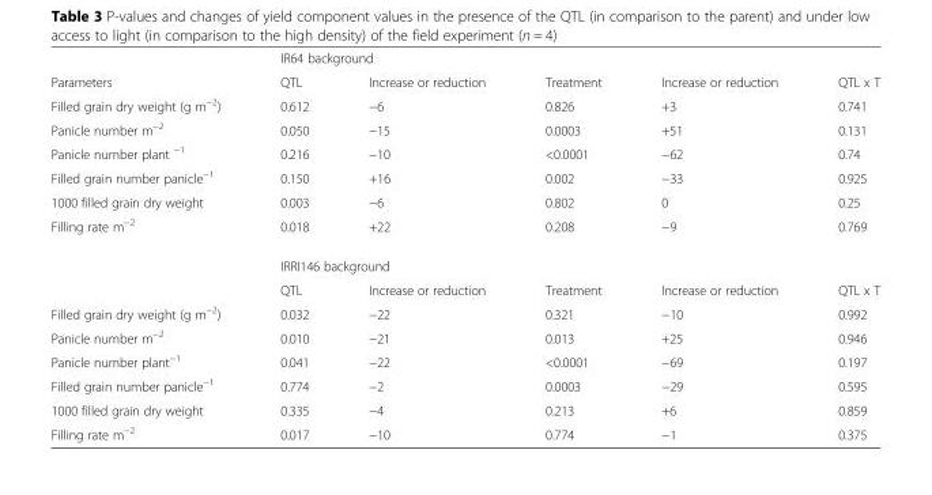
<table><thead><tr><td rowspan="2">Parameters</td><td colspan="5">IR64 background</td></tr><tr><td>QTL</td><td>Increase or reduction</td><td>Treatment</td><td>Increase or reduction</td><td>QTL x T</td></tr></thead><tbody><tr><td>Filled grain dry weight (g m<sup>−2</sup>)</td><td>0.612</td><td>−6</td><td>0.826</td><td>+3</td><td>0.741</td></tr><tr><td>Panicle number m<sup>−2</sup></td><td>0.050</td><td>−15</td><td>0.0003</td><td>+51</td><td>0.131</td></tr><tr><td>Panicle number plant <sup>−1</sup></td><td>0.216</td><td>−10</td><td>&lt;0.0001</td><td>−62</td><td>0.74</td></tr><tr><td>Filled grain number panicle<sup>−1</sup></td><td>0.150</td><td>+16</td><td>0.002</td><td>−33</td><td>0.925</td></tr><tr><td>1000 filled grain dry weight</td><td>0.003</td><td>−6</td><td>0.802</td><td>0</td><td>0.25</td></tr><tr><td rowspan="3">Filling rate m<sup>−2</sup></td><td>0.018</td><td>+22</td><td>0.208</td><td>−9</td><td>0.769</td></tr><tr><td colspan="5">IRRI146 background</td></tr><tr><td>QTL</td><td>Increase or reduction</td><td>Treatment</td><td>Increase or reduction</td><td>QTL x T</td></tr><tr><td>Filled grain dry weight (g m<sup>−2</sup>)</td><td>0.032</td><td>−22</td><td>0.321</td><td>−10</td><td>0.992</td></tr><tr><td>Panicle number m<sup>−2</sup></td><td>0.010</td><td>−21</td><td>0.013</td><td>+25</td><td>0.946</td></tr><tr><td>Panicle number plant<sup>−1</sup></td><td>0.041</td><td>−22</td><td>&lt;0.0001</td><td>−69</td><td>0.197</td></tr><tr><td>Filled grain number panicle<sup>−1</sup></td><td>0.774</td><td>−2</td><td>0.0003</td><td>−29</td><td>0.595</td></tr><tr><td>1000 filled grain dry weight</td><td>0.335</td><td>−4</td><td>0.213</td><td>+6</td><td>0.859</td></tr><tr><td>Filling rate m<sup>−2</sup></td><td>0.017</td><td>−10</td><td>0.774</td><td>−1</td><td>0.375</td></tr></tbody></table>